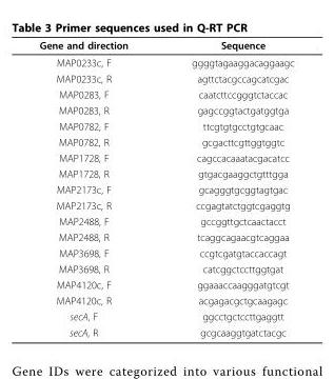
<table><thead><tr><td>Gene and direction</td><td>Sequence</td></tr></thead><tbody><tr><td>MAP0233c, F</td><td>ggggtagaaggacaggaagc</td></tr><tr><td>MAP0233c, R</td><td>agttctacgccagcatcgac</td></tr><tr><td>MAP0283, F</td><td>caatcttccgggtctaccac</td></tr><tr><td>MAP0283, R</td><td>gagccggtactgatggtga</td></tr><tr><td>MAP0782, F</td><td>ttcgtgtgcctgtgcaac</td></tr><tr><td>MAP0782, R</td><td>gcgacttcgttggtggtc</td></tr><tr><td>MAP1728, F</td><td>cagccacaaatacgacatcc</td></tr><tr><td>MAP1728, R</td><td>gtgacgaaggctgtttgga</td></tr><tr><td>MAP2173c, F</td><td>gcagggtgcggtagtgac</td></tr><tr><td>MAP2173c, R</td><td>ccgagtatctggtcgaggtg</td></tr><tr><td>MAP2488, F</td><td>gccggttgctcaactacct</td></tr><tr><td>MAP2488, R</td><td>tcaggcagaacgtcaggaa</td></tr><tr><td>MAP3698, F</td><td>ccgtcgatgtaccaccagt</td></tr><tr><td>MAP3698, R</td><td>catcggctccttggtgat</td></tr><tr><td>MAP4120c, F</td><td>ggaaaccaagggatgtcgt</td></tr><tr><td>MAP4120c, R</td><td>acgagacgctgcaagagc</td></tr><tr><td>secA, F</td><td>ggcctgctccttgaggtt</td></tr><tr><td>secA, R</td><td>gcgcaaggtgatctacgc</td></tr></tbody></table>